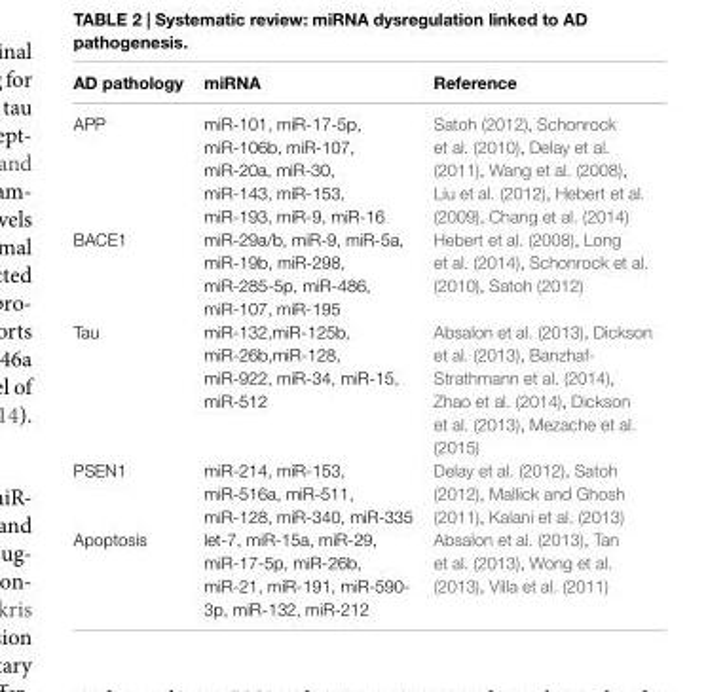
<table><thead><tr><td>AD pathology</td><td>miRNA</td><td>Reference</td></tr></thead><tbody><tr><td>APP</td><td>miR-101, miR-17-5p, miR-106b, miR-107, miR-20a, miR-30, miR-143, miR-153, miR-193, miR-9, miR-16</td><td>Satoh (2012), Schonrock et al. (2010), Delay et al. (2011), Wang et al. (2008), Liu et al. (2012), Hebert et al. (2009), Chang et al. (2014)</td></tr><tr><td>BACE1</td><td>miR-29a/b, miR-9, miR-5a, miR-19b, miR-298, miR-285-5p, miR-486, miR-107, miR-195</td><td>Hebert et al. (2008), Long et al. (2014), Schonrock et al. (2010), Satoh (2012)</td></tr><tr><td>Tau</td><td>miR-132,miR-125b, miR-26b,miR-128, miR-922, miR-34, miR-15, miR-512</td><td>Absalon et al. (2013), Dickson et al. (2013), Banzhaf- Strathmann et al. (2014), Zhao et al. (2014), Dickson et al. (2013), Mezache et al. (2015)</td></tr><tr><td>PSEN1</td><td>miR-214, miR-153, miR-516a, miR-511, miR-128, miR-340, miR-335</td><td>Delay et al. (2012), Satoh (2012), Mallick and Ghosh (2011), Kalani et al. (2013)</td></tr><tr><td>Apoptosis</td><td>let-7, miR-15a, miR-29, miR-17-5p, miR-26b, miR-21, miR-191, miR-590- 3p, miR-132, miR-212</td><td>Absalon et al. (2013), Tan et al. (2013), Wong et al. (2013), Villa et al. (2011)</td></tr></tbody></table>